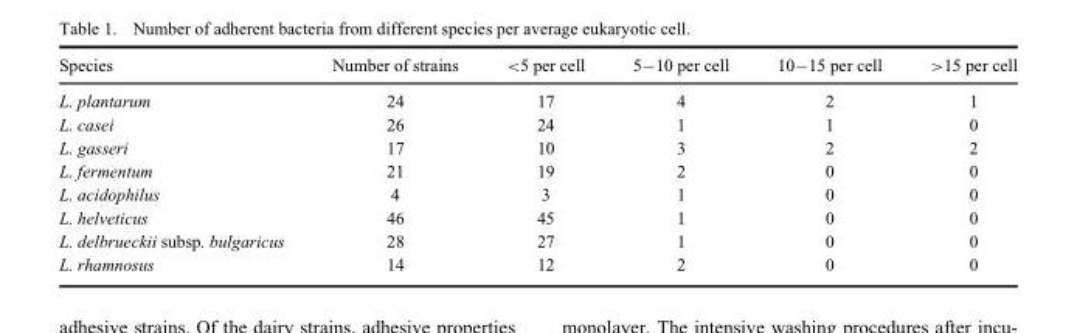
<table><thead><tr><td>Species</td><td>Number of strains</td><td>&lt;5 per cell</td><td>5–10 per cell</td><td>10–15 per cell</td><td>&gt;15 per cell</td></tr></thead><tbody><tr><td>L. plantarum</td><td>24</td><td>17</td><td>4</td><td>2</td><td>1</td></tr><tr><td>L. casei</td><td>26</td><td>24</td><td>1</td><td>1</td><td>0</td></tr><tr><td>L. gasseri</td><td>17</td><td>10</td><td>3</td><td>2</td><td>2</td></tr><tr><td>L. fermentum</td><td>21</td><td>19</td><td>2</td><td>0</td><td>0</td></tr><tr><td>L. acidophilus</td><td>4</td><td>3</td><td>1</td><td>0</td><td>0</td></tr><tr><td>L. helveticus</td><td>46</td><td>45</td><td>1</td><td>0</td><td>0</td></tr><tr><td>L. delbrueckii subsp. bulgaricus</td><td>28</td><td>27</td><td>1</td><td>0</td><td>0</td></tr><tr><td>L. rhamnosus</td><td>14</td><td>12</td><td>2</td><td>0</td><td>0</td></tr></tbody></table>